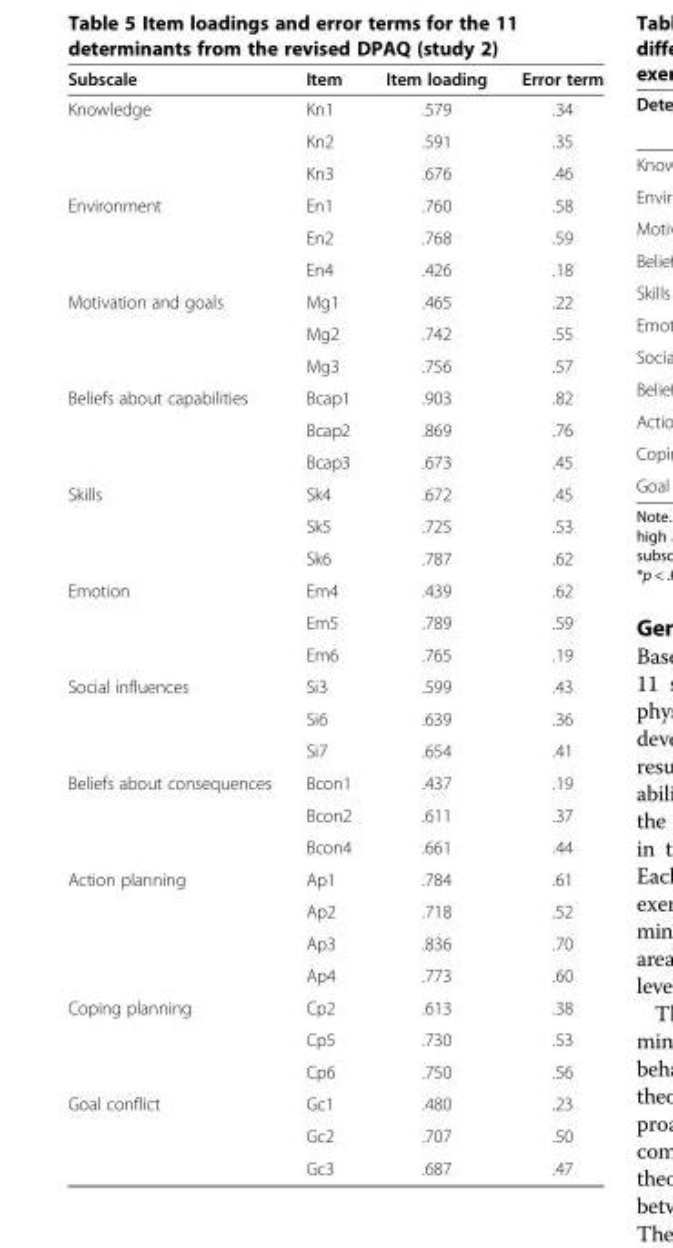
<table><thead><tr><td>Subscale</td><td>Item</td><td>Item loading</td><td>Error term</td></tr></thead><tbody><tr><td rowspan="3">Knowledge</td><td>Kn1</td><td>.579</td><td>.34</td></tr><tr><td>Kn2</td><td>.591</td><td>.35</td></tr><tr><td>Kn3</td><td>.676</td><td>.46</td></tr><tr><td rowspan="3">Environment</td><td>En1</td><td>.760</td><td>.58</td></tr><tr><td>En2</td><td>.768</td><td>.59</td></tr><tr><td>En4</td><td>.426</td><td>.18</td></tr><tr><td rowspan="3">Motivation and goals</td><td>Mg1</td><td>.465</td><td>.22</td></tr><tr><td>Mg2</td><td>.742</td><td>.55</td></tr><tr><td>Mg3</td><td>.756</td><td>.57</td></tr><tr><td rowspan="3">Beliefs about capabilities</td><td>Bcap1</td><td>.903</td><td>.82</td></tr><tr><td>Bcap2</td><td>.869</td><td>.76</td></tr><tr><td>Bcap3</td><td>.673</td><td>.45</td></tr><tr><td rowspan="3">Skills</td><td>Sk4</td><td>.672</td><td>.45</td></tr><tr><td>Sk5</td><td>.725</td><td>.53</td></tr><tr><td>Sk6</td><td>.787</td><td>.62</td></tr><tr><td rowspan="3">Emotion</td><td>Em4</td><td>.439</td><td>.62</td></tr><tr><td>Em5</td><td>.789</td><td>.59</td></tr><tr><td>Em6</td><td>.765</td><td>.19</td></tr><tr><td rowspan="3">Social influences</td><td>Si3</td><td>.599</td><td>.43</td></tr><tr><td>Si6</td><td>.639</td><td>.36</td></tr><tr><td>Si7</td><td>.654</td><td>.41</td></tr><tr><td rowspan="3">Beliefs about consequences</td><td>Bcon1</td><td>.437</td><td>.19</td></tr><tr><td>Bcon2</td><td>.611</td><td>.37</td></tr><tr><td>Bcon4</td><td>.661</td><td>.44</td></tr><tr><td rowspan="4">Action planning</td><td>Ap1</td><td>.784</td><td>.61</td></tr><tr><td>Ap2</td><td>.718</td><td>.52</td></tr><tr><td>Ap3</td><td>.836</td><td>.70</td></tr><tr><td>Ap4</td><td>.773</td><td>.60</td></tr><tr><td rowspan="3">Coping planning</td><td>Cp2</td><td>.613</td><td>.38</td></tr><tr><td>Cp5</td><td>.730</td><td>.53</td></tr><tr><td>Cp6</td><td>.750</td><td>.56</td></tr><tr><td rowspan="3">Goal conflict</td><td>Gc1</td><td>.480</td><td>.23</td></tr><tr><td>Gc2</td><td>.707</td><td>.50</td></tr><tr><td>Gc3</td><td>.687</td><td>.47</td></tr></tbody></table>